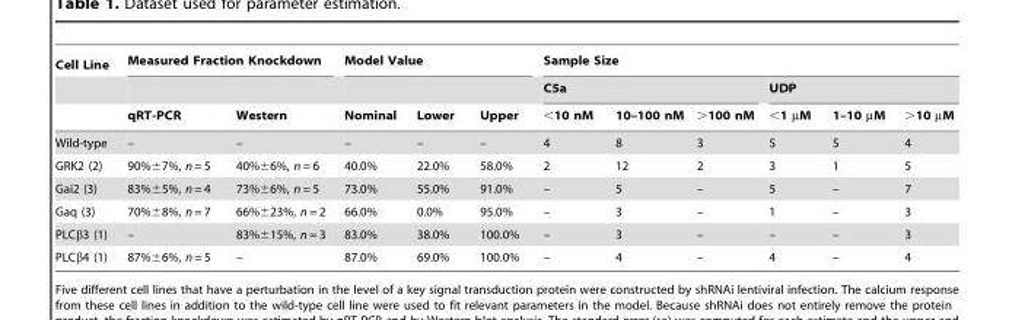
<table><thead><tr><td rowspan="3">Cell Line</td><td colspan="2">Measured Fraction Knockdown</td><td colspan="3">Model Value</td><td colspan="6">Sample Size</td></tr><tr><td rowspan="2">qRT-PCR</td><td rowspan="2">Western</td><td rowspan="2">Nominal</td><td rowspan="2">Lower</td><td rowspan="2">Upper</td><td colspan="3">C5a</td><td colspan="3">UDP</td></tr><tr><td>&lt;10 nM</td><td>10–100 nM</td><td>&gt;100 nM</td><td>&lt;1 µM</td><td>1–10 µM</td><td>&gt;10 µM</td></tr></thead><tbody><tr><td>Wild-type</td><td>–</td><td>–</td><td>–</td><td>–</td><td>–</td><td>4</td><td>8</td><td>3</td><td>5</td><td>5</td><td>4</td></tr><tr><td>GRK2 (2)</td><td>90%±7%, n = 5</td><td>40%±6%, n = 6</td><td>40.0%</td><td>22.0%</td><td>58.0%</td><td>2</td><td>12</td><td>2</td><td>3</td><td>1</td><td>5</td></tr><tr><td>Gai2 (3)</td><td>83%±5%, n = 4</td><td>73%±6%, n = 5</td><td>73.0%</td><td>55.0%</td><td>91.0%</td><td>–</td><td>5</td><td>–</td><td>5</td><td>–</td><td>7</td></tr><tr><td>Gaq (3)</td><td>70%±8%, n = 7</td><td>66%±23%, n = 2</td><td>66.0%</td><td>0.0%</td><td>95.0%</td><td>–</td><td>3</td><td>–</td><td>1</td><td>–</td><td>3</td></tr><tr><td>PLCβ3 (1)</td><td>–</td><td>83%±15%, n = 3</td><td>83.0%</td><td>38.0%</td><td>100.0%</td><td>–</td><td>3</td><td>–</td><td>–</td><td>–</td><td>3</td></tr><tr><td>PLCβ4 (1)</td><td>87%±6%, n = 5</td><td>–</td><td>87.0%</td><td>69.0%</td><td>100.0%</td><td>–</td><td>4</td><td>–</td><td>4</td><td>–</td><td>4</td></tr></tbody></table>